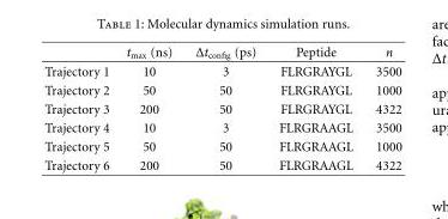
<table><thead><tr><td></td><td>t<sub>max</sub> (ns)</td><td>Δt<sub>config</sub> (ps)</td><td>Peptide</td><td>n</td></tr></thead><tbody><tr><td>Trajectory 1</td><td>10</td><td>3</td><td>FLRGRAYGL</td><td>3500</td></tr><tr><td>Trajectory 2</td><td>50</td><td>50</td><td>FLRGRAYGL</td><td>1000</td></tr><tr><td>Trajectory 3</td><td>200</td><td>50</td><td>FLRGRAYGL</td><td>4322</td></tr><tr><td>Trajectory 4</td><td>10</td><td>3</td><td>FLRGRAAGL</td><td>3500</td></tr><tr><td>Trajectory 5</td><td>50</td><td>50</td><td>FLRGRAAGL</td><td>1000</td></tr><tr><td>Trajectory 6</td><td>200</td><td>50</td><td>FLRGRAAGL</td><td>4322</td></tr></tbody></table>